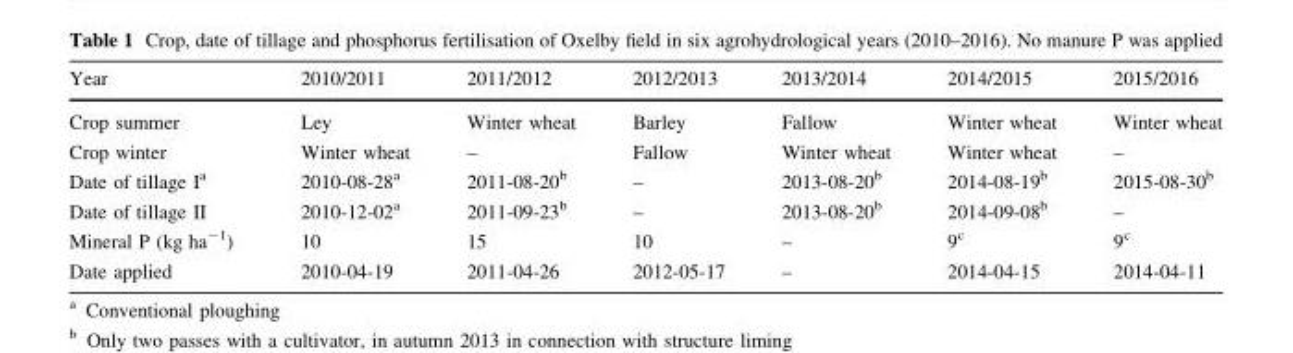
<table><thead><tr><td>Year</td><td>2010/2011</td><td>2011/2012</td><td>2012/2013</td><td>2013/2014</td><td>2014/2015</td><td>2015/2016</td></tr></thead><tbody><tr><td>Crop summer</td><td>Ley</td><td>Winter wheat</td><td>Barley</td><td>Fallow</td><td>Winter wheat</td><td>Winter wheat</td></tr><tr><td>Crop winter</td><td>Winter wheat</td><td>–</td><td>Fallow</td><td>Winter wheat</td><td>Winter wheat</td><td>–</td></tr><tr><td>Date of tillage I<sup>a</sup></td><td>2010-08-28<sup>a</sup></td><td>2011-08-20<sup>b</sup></td><td>–</td><td>2013-08-20<sup>b</sup></td><td>2014-08-19<sup>b</sup></td><td>2015-08-30<sup>b</sup></td></tr><tr><td>Date of tillage II</td><td>2010-12-02<sup>a</sup></td><td>2011-09-23<sup>b</sup></td><td>–</td><td>2013-08-20<sup>b</sup></td><td>2014-09-08<sup>b</sup></td><td>–</td></tr><tr><td>Mineral P (kg ha<sup>-1</sup>)</td><td>10</td><td>15</td><td>10</td><td>–</td><td>9<sup>c</sup></td><td>9<sup>c</sup></td></tr><tr><td>Date applied</td><td>2010-04-19</td><td>2011-04-26</td><td>2012-05-17</td><td>–</td><td>2014-04-15</td><td>2014-04-11</td></tr></tbody></table>